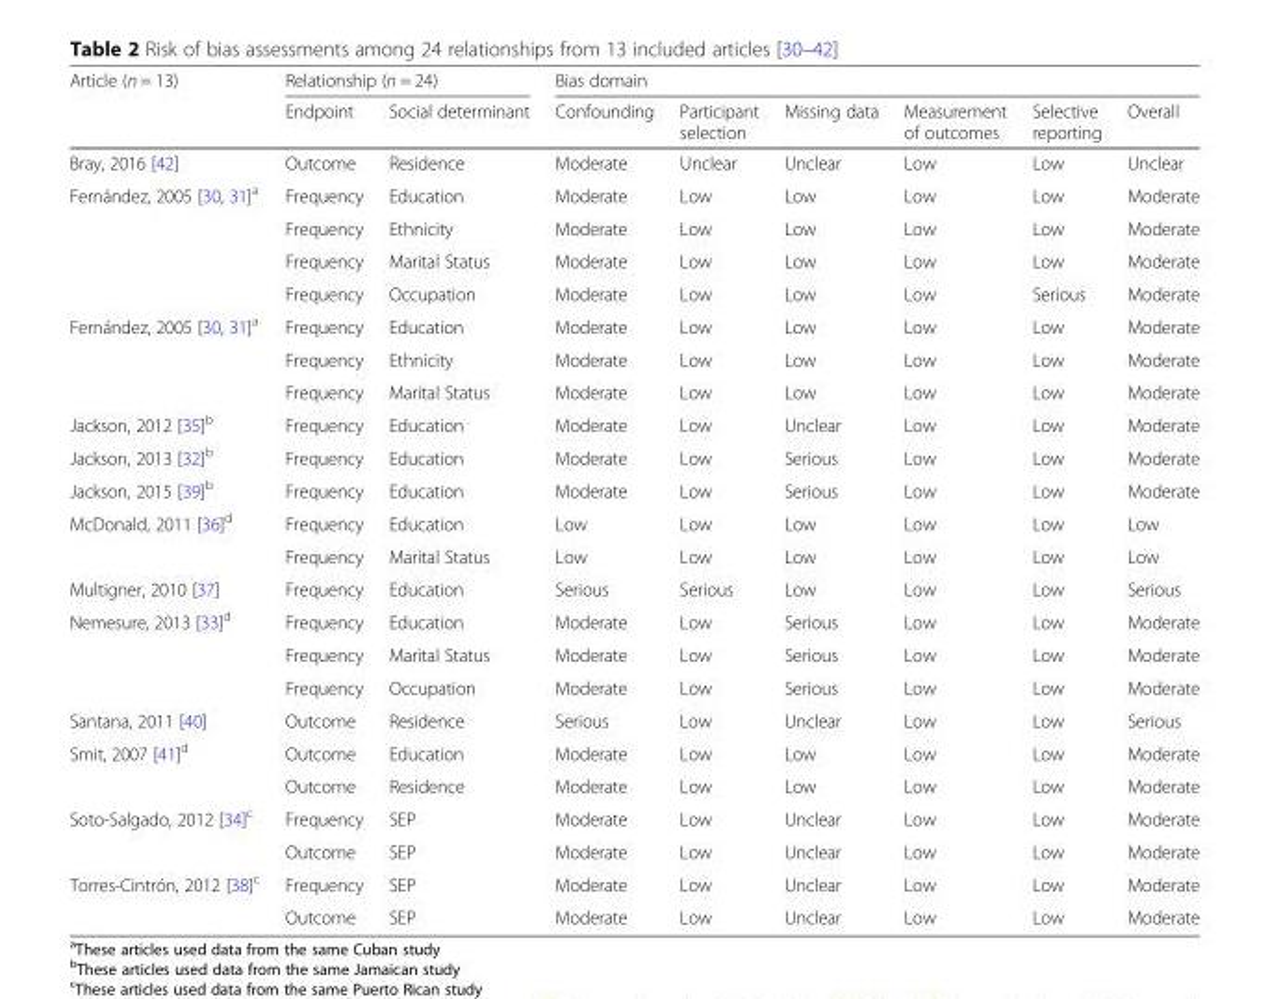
<table><thead><tr><td rowspan="2">Article (n = 13)</td><td colspan="2">Relationship (n = 24)</td><td colspan="6">Bias domain</td></tr><tr><td>Endpoint</td><td>Social determinant</td><td>Confounding</td><td>Participant selection</td><td>Missing data</td><td>Measurement of outcomes</td><td>Selective reporting</td><td>Overall</td></tr></thead><tbody><tr><td>Bray, 2016 [42]</td><td>Outcome</td><td>Residence</td><td>Moderate</td><td>Unclear</td><td>Unclear</td><td>Low</td><td>Low</td><td>Unclear</td></tr><tr><td rowspan="4">Fernández, 2005 [30, 31]<sup>a</sup></td><td>Frequency</td><td>Education</td><td>Moderate</td><td>Low</td><td>Low</td><td>Low</td><td>Low</td><td>Moderate</td></tr><tr><td>Frequency</td><td>Ethnicity</td><td>Moderate</td><td>Low</td><td>Low</td><td>Low</td><td>Low</td><td>Moderate</td></tr><tr><td>Frequency</td><td>Marital Status</td><td>Moderate</td><td>Low</td><td>Low</td><td>Low</td><td>Low</td><td>Moderate</td></tr><tr><td>Frequency</td><td>Occupation</td><td>Moderate</td><td>Low</td><td>Low</td><td>Low</td><td>Serious</td><td>Moderate</td></tr><tr><td rowspan="3">Fernández, 2005 [30, 31]<sup>a</sup></td><td>Frequency</td><td>Education</td><td>Moderate</td><td>Low</td><td>Low</td><td>Low</td><td>Low</td><td>Moderate</td></tr><tr><td>Frequency</td><td>Ethnicity</td><td>Moderate</td><td>Low</td><td>Low</td><td>Low</td><td>Low</td><td>Moderate</td></tr><tr><td>Frequency</td><td>Marital Status</td><td>Moderate</td><td>Low</td><td>Low</td><td>Low</td><td>Low</td><td>Moderate</td></tr><tr><td>Jackson, 2012 [35]<sup>b</sup></td><td>Frequency</td><td>Education</td><td>Moderate</td><td>Low</td><td>Unclear</td><td>Low</td><td>Low</td><td>Moderate</td></tr><tr><td>Jackson, 2013 [32]<sup>b</sup></td><td>Frequency</td><td>Education</td><td>Moderate</td><td>Low</td><td>Serious</td><td>Low</td><td>Low</td><td>Moderate</td></tr><tr><td>Jackson, 2015 [39]<sup>b</sup></td><td>Frequency</td><td>Education</td><td>Moderate</td><td>Low</td><td>Serious</td><td>Low</td><td>Low</td><td>Moderate</td></tr><tr><td rowspan="2">McDonald, 2011 [36]<sup>d</sup></td><td>Frequency</td><td>Education</td><td>Low</td><td>Low</td><td>Low</td><td>Low</td><td>Low</td><td>Low</td></tr><tr><td>Frequency</td><td>Marital Status</td><td>Low</td><td>Low</td><td>Low</td><td>Low</td><td>Low</td><td>Low</td></tr><tr><td>Multigner, 2010 [37]</td><td>Frequency</td><td>Education</td><td>Serious</td><td>Serious</td><td>Low</td><td>Low</td><td>Low</td><td>Serious</td></tr><tr><td rowspan="3">Nemesure, 2013 [33]<sup>d</sup></td><td>Frequency</td><td>Education</td><td>Moderate</td><td>Low</td><td>Serious</td><td>Low</td><td>Low</td><td>Moderate</td></tr><tr><td>Frequency</td><td>Marital Status</td><td>Moderate</td><td>Low</td><td>Serious</td><td>Low</td><td>Low</td><td>Moderate</td></tr><tr><td>Frequency</td><td>Occupation</td><td>Moderate</td><td>Low</td><td>Serious</td><td>Low</td><td>Low</td><td>Moderate</td></tr><tr><td>Santana, 2011 [40]</td><td>Outcome</td><td>Residence</td><td>Serious</td><td>Low</td><td>Unclear</td><td>Low</td><td>Low</td><td>Serious</td></tr><tr><td rowspan="2">Smit, 2007 [41]<sup>d</sup></td><td>Outcome</td><td>Education</td><td>Moderate</td><td>Low</td><td>Low</td><td>Low</td><td>Low</td><td>Moderate</td></tr><tr><td>Outcome</td><td>Residence</td><td>Moderate</td><td>Low</td><td>Low</td><td>Low</td><td>Low</td><td>Moderate</td></tr><tr><td rowspan="2">Soto-Salgado, 2012 [34]<sup>c</sup></td><td>Frequency</td><td>SEP</td><td>Moderate</td><td>Low</td><td>Unclear</td><td>Low</td><td>Low</td><td>Moderate</td></tr><tr><td>Outcome</td><td>SEP</td><td>Moderate</td><td>Low</td><td>Unclear</td><td>Low</td><td>Low</td><td>Moderate</td></tr><tr><td rowspan="2">Torres-Cintrón, 2012 [38]<sup>c</sup></td><td>Frequency</td><td>SEP</td><td>Moderate</td><td>Low</td><td>Unclear</td><td>Low</td><td>Low</td><td>Moderate</td></tr><tr><td>Outcome</td><td>SEP</td><td>Moderate</td><td>Low</td><td>Unclear</td><td>Low</td><td>Low</td><td>Moderate</td></tr></tbody></table>